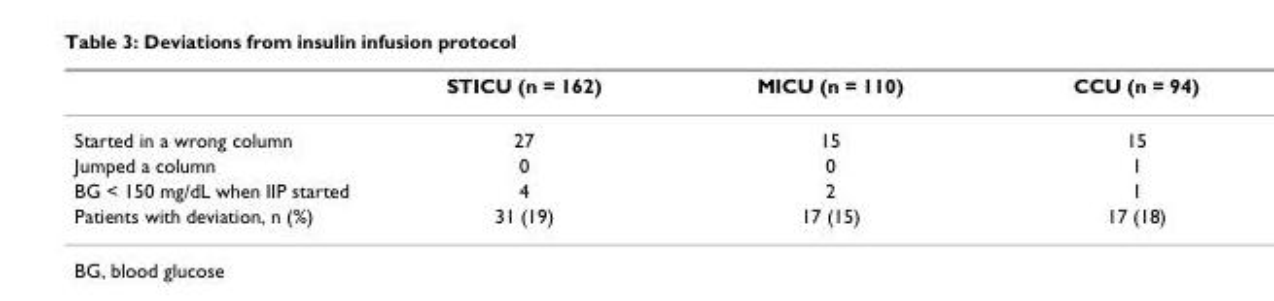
<table><thead><tr><td></td><td>STICU (n = 162)</td><td>MICU (n = 110)</td><td>CCU (n = 94)</td></tr></thead><tbody><tr><td>Started in a wrong column</td><td>27</td><td>15</td><td>15</td></tr><tr><td>Jumped a column</td><td>0</td><td>0</td><td>1</td></tr><tr><td>BG &lt; 150 mg/dL when IIP started</td><td>4</td><td>2</td><td>1</td></tr><tr><td>Patients with deviation, n (%)</td><td>31 (19)</td><td>17 (15)</td><td>17 (18)</td></tr></tbody></table>